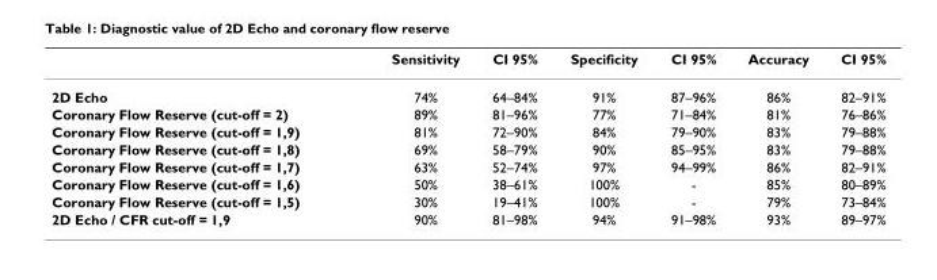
<table><thead><tr><td></td><td>Sensitivity</td><td>CI 95%</td><td>Specificity</td><td>CI 95%</td><td>Accuracy</td><td>CI 95%</td></tr></thead><tbody><tr><td>2D Echo</td><td>74%</td><td>64–84%</td><td>91%</td><td>87–96%</td><td>86%</td><td>82–91%</td></tr><tr><td>Coronary Flow Reserve (cut-off = 2)</td><td>89%</td><td>81–96%</td><td>77%</td><td>71–84%</td><td>81%</td><td>76–86%</td></tr><tr><td>Coronary Flow Reserve (cut-off = 1,9)</td><td>81%</td><td>72–90%</td><td>84%</td><td>79–90%</td><td>83%</td><td>79–88%</td></tr><tr><td>Coronary Flow Reserve (cut-off = 1,8)</td><td>69%</td><td>58–79%</td><td>90%</td><td>85–95%</td><td>83%</td><td>79–88%</td></tr><tr><td>Coronary Flow Reserve (cut-off = 1,7)</td><td>63%</td><td>52–74%</td><td>97%</td><td>94–99%</td><td>86%</td><td>82–91%</td></tr><tr><td>Coronary Flow Reserve (cut-off = 1,6)</td><td>50%</td><td>38–61%</td><td>100%</td><td>-</td><td>85%</td><td>80–89%</td></tr><tr><td>Coronary Flow Reserve (cut-off = 1,5)</td><td>30%</td><td>19–41%</td><td>100%</td><td>-</td><td>79%</td><td>73–84%</td></tr><tr><td>2D Echo / CFR cut-off = 1,9</td><td>90%</td><td>81–98%</td><td>94%</td><td>91–98%</td><td>93%</td><td>89–97%</td></tr></tbody></table>